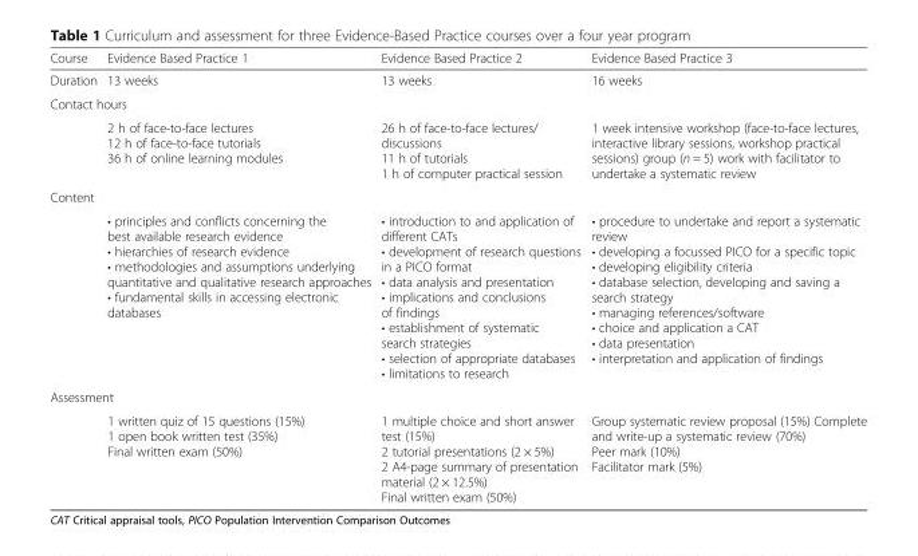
<table><thead><tr><td>Course</td><td>Evidence Based Practice 1</td><td>Evidence Based Practice 2</td><td>Evidence Based Practice 3</td></tr></thead><tbody><tr><td>Duration</td><td>13 weeks</td><td>13 weeks</td><td>16 weeks</td></tr><tr><td colspan="4">Contact hours</td></tr><tr><td></td><td>2 h of face-to-face lectures 12 h of face-to-face tutorials 36 h of online learning modules</td><td>26 h of face-to-face lectures/ discussions 11 h of tutorials 1 h of computer practical session</td><td>1 week intensive workshop (face-to-face lectures, interactive library sessions, workshop practical sessions) group (n = 5) work with facilitator to undertake a systematic review</td></tr><tr><td colspan="4">Content</td></tr><tr><td></td><td>• principles and conflicts concerning the best available research evidence • hierarchies of research evidence • methodologies and assumptions underlying quantitative and qualitative research approaches • fundamental skills in accessing electronic databases</td><td>• introduction to and application of different CATs • development of research questions in a PICO format • data analysis and presentation • implications and conclusions of findings • establishment of systematic search strategies • selection of appropriate databases • limitations to research</td><td>• procedure to undertake and report a systematic review • developing a focussed PICO for a specific topic • developing eligibility criteria • database selection, developing and saving a search strategy • managing references/software • choice and application a CAT • data presentation • interpretation and application of findings</td></tr><tr><td colspan="4">Assessment</td></tr><tr><td></td><td>1 written quiz of 15 questions (15%) 1 open book written test (35%) Final written exam (50%)</td><td>1 multiple choice and short answer test (15%) 2 tutorial presentations (2 × 5%) 2 A4-page summary of presentation material (2 × 12.5%) Final written exam (50%)</td><td>Group systematic review proposal (15%) Complete and write-up a systematic review (70%) Peer mark (10%) Facilitator mark (5%)</td></tr></tbody></table>